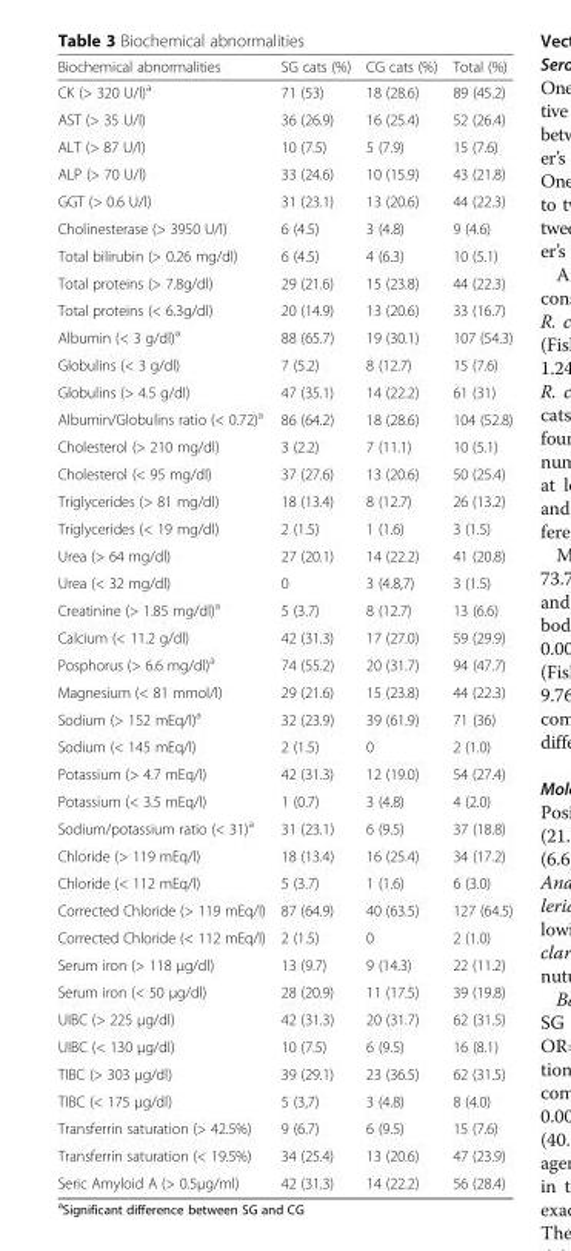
<table><thead><tr><td>Biochemical abnormalities</td><td>SG cats (%)</td><td>CG cats (%)</td><td>Total (%)</td></tr></thead><tbody><tr><td>CK (&gt; 320 U/l)<sup>a</sup></td><td>71 (53)</td><td>18 (28.6)</td><td>89 (45.2)</td></tr><tr><td>AST (&gt; 35 U/l)</td><td>36 (26.9)</td><td>16 (25.4)</td><td>52 (26.4)</td></tr><tr><td>ALT (&gt; 87 U/l)</td><td>10 (7.5)</td><td>5 (7.9)</td><td>15 (7.6)</td></tr><tr><td>ALP (&gt; 70 U/l)</td><td>33 (24.6)</td><td>10 (15.9)</td><td>43 (21.8)</td></tr><tr><td>GGT (&gt; 0.6 U/l)</td><td>31 (23.1)</td><td>13 (20.6)</td><td>44 (22.3)</td></tr><tr><td>Cholinesterase (&gt; 3950 U/l)</td><td>6 (4.5)</td><td>3 (4.8)</td><td>9 (4.6)</td></tr><tr><td>Total bilirubin (&gt; 0.26 mg/dl)</td><td>6 (4.5)</td><td>4 (6.3)</td><td>10 (5.1)</td></tr><tr><td>Total proteins (&gt; 7.8g/dl)</td><td>29 (21.6)</td><td>15 (23.8)</td><td>44 (22.3)</td></tr><tr><td>Total proteins (&lt; 6.3g/dl)</td><td>20 (14.9)</td><td>13 (20.6)</td><td>33 (16.7)</td></tr><tr><td>Albumin (&lt; 3 g/dl)<sup>a</sup></td><td>88 (65.7)</td><td>19 (30.1)</td><td>107 (54.3)</td></tr><tr><td>Globulins (&lt; 3 g/dl)</td><td>7 (5.2)</td><td>8 (12.7)</td><td>15 (7.6)</td></tr><tr><td>Globulins (&gt; 4.5 g/dl)</td><td>47 (35.1)</td><td>14 (22.2)</td><td>61 (31)</td></tr><tr><td>Albumin/Globulins ratio (&lt; 0.72)<sup>a</sup></td><td>86 (64.2)</td><td>18 (28.6)</td><td>104 (52.8)</td></tr><tr><td>Cholesterol (&gt; 210 mg/dl)</td><td>3 (2.2)</td><td>7 (11.1)</td><td>10 (5.1)</td></tr><tr><td>Cholesterol (&lt; 95 mg/dl)</td><td>37 (27.6)</td><td>13 (20.6)</td><td>50 (25.4)</td></tr><tr><td>Triglycerides (&gt; 81 mg/dl)</td><td>18 (13.4)</td><td>8 (12.7)</td><td>26 (13.2)</td></tr><tr><td>Triglycerides (&lt; 19 mg/dl)</td><td>2 (1.5)</td><td>1 (1.6)</td><td>3 (1.5)</td></tr><tr><td>Urea (&gt; 64 mg/dl)</td><td>27 (20.1)</td><td>14 (22.2)</td><td>41 (20.8)</td></tr><tr><td>Urea (&lt; 32 mg/dl)</td><td>0</td><td>3 (4.8,7)</td><td>3 (1.5)</td></tr><tr><td>Creatinine (&gt; 1.85 mg/dl)<sup>a</sup></td><td>5 (3.7)</td><td>8 (12.7)</td><td>13 (6.6)</td></tr><tr><td>Calcium (&lt; 11.2 g/dl)</td><td>42 (31.3)</td><td>17 (27.0)</td><td>59 (29.9)</td></tr><tr><td>Posphorus (&gt; 6.6 mg/dl)<sup>a</sup></td><td>74 (55.2)</td><td>20 (31.7)</td><td>94 (47.7)</td></tr><tr><td>Magnesium (&lt; 81 mmol/l)</td><td>29 (21.6)</td><td>15 (23.8)</td><td>44 (22.3)</td></tr><tr><td>Sodium (&gt; 152 mEq/l)<sup>a</sup></td><td>32 (23.9)</td><td>39 (61.9)</td><td>71 (36)</td></tr><tr><td>Sodium (&lt; 145 mEq/l)</td><td>2 (1.5)</td><td>0</td><td>2 (1.0)</td></tr><tr><td>Potassium (&gt; 4.7 mEq/l)</td><td>42 (31.3)</td><td>12 (19.0)</td><td>54 (27.4)</td></tr><tr><td>Potassium (&lt; 3.5 mEq/l)</td><td>1 (0.7)</td><td>3 (4.8)</td><td>4 (2.0)</td></tr><tr><td>Sodium/potassium ratio (&lt; 31)<sup>a</sup></td><td>31 (23.1)</td><td>6 (9.5)</td><td>37 (18.8)</td></tr><tr><td>Chloride (&gt; 119 mEq/l)</td><td>18 (13.4)</td><td>16 (25.4)</td><td>34 (17.2)</td></tr><tr><td>Chloride (&lt; 112 mEq/l)</td><td>5 (3.7)</td><td>1 (1.6)</td><td>6 (3.0)</td></tr><tr><td>Corrected Chloride (&gt; 119 mEq/l)</td><td>87 (64.9)</td><td>40 (63.5)</td><td>127 (64.5)</td></tr><tr><td>Corrected Chloride (&lt; 112 mEq/l)</td><td>2 (1.5)</td><td>0</td><td>2 (1.0)</td></tr><tr><td>Serum iron (&gt; 118 μg/dl)</td><td>13 (9.7)</td><td>9 (14.3)</td><td>22 (11.2)</td></tr><tr><td>Serum iron (&lt; 50 μg/dl)</td><td>28 (20.9)</td><td>11 (17.5)</td><td>39 (19.8)</td></tr><tr><td>UIBC (&gt; 225 μg/dl)</td><td>42 (31.3)</td><td>20 (31.7)</td><td>62 (31.5)</td></tr><tr><td>UIBC (&lt; 130 μg/dl)</td><td>10 (7.5)</td><td>6 (9.5)</td><td>16 (8.1)</td></tr><tr><td>TIBC (&gt; 303 μg/dl)</td><td>39 (29.1)</td><td>23 (36.5)</td><td>62 (31.5)</td></tr><tr><td>TIBC (&lt; 175 μg/dl)</td><td>5 (3,7)</td><td>3 (4.8)</td><td>8 (4.0)</td></tr><tr><td>Transferrin saturation (&gt; 42.5%)</td><td>9 (6.7)</td><td>6 (9.5)</td><td>15 (7.6)</td></tr><tr><td>Transferrin saturation (&lt; 19.5%)</td><td>34 (25.4)</td><td>13 (20.6)</td><td>47 (23.9)</td></tr><tr><td>Seric Amyloid A (&gt; 0.5μg/ml)</td><td>42 (31.3)</td><td>14 (22.2)</td><td>56 (28.4)</td></tr></tbody></table>